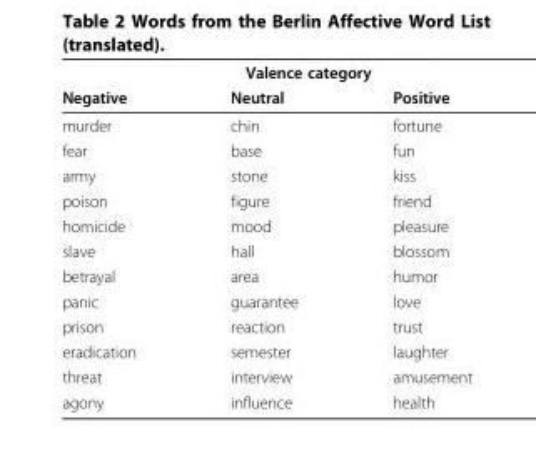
<table><thead><tr><td colspan="3">Valence category</td></tr><tr><td>Negative</td><td>Neutral</td><td>Positive</td></tr></thead><tbody><tr><td>murder</td><td>chin</td><td>fortune</td></tr><tr><td>fear</td><td>base</td><td>fun</td></tr><tr><td>army</td><td>stone</td><td>kiss</td></tr><tr><td>poison</td><td>figure</td><td>friend</td></tr><tr><td>homicide</td><td>mood</td><td>pleasure</td></tr><tr><td>slave</td><td>hall</td><td>blossom</td></tr><tr><td>betrayal</td><td>area</td><td>humor</td></tr><tr><td>panic</td><td>guarantee</td><td>love</td></tr><tr><td>prison</td><td>reaction</td><td>trust</td></tr><tr><td>eradication</td><td>semester</td><td>laughter</td></tr><tr><td>threat</td><td>interview</td><td>amusement</td></tr><tr><td>agony</td><td>influence</td><td>health</td></tr></tbody></table>